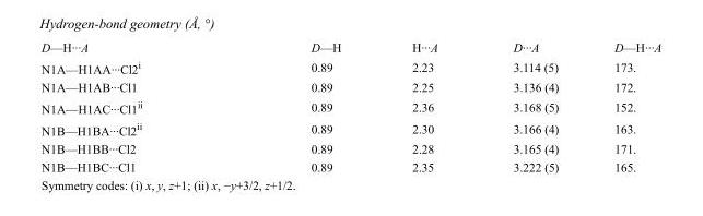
<table><tbody><tr><td>D—H···A</td><td>D—H</td><td>H···A</td><td>D···A</td><td>D—H···A</td></tr><tr><td>N1A—H1AA···Cl2<sup>i</sup></td><td>0.89</td><td>2.23</td><td>3.114 (5)</td><td>173.</td></tr><tr><td>N1A—H1AB···Cl1</td><td>0.89</td><td>2.25</td><td>3.136 (4)</td><td>172.</td></tr><tr><td>N1A—H1AC···Cl1<sup>ii</sup></td><td>0.89</td><td>2.36</td><td>3.168 (5)</td><td>152.</td></tr><tr><td>N1B—H1BA···Cl2<sup>ii</sup></td><td>0.89</td><td>2.30</td><td>3.166 (4)</td><td>163.</td></tr><tr><td>N1B—H1BB···Cl2</td><td>0.89</td><td>2.28</td><td>3.165 (4)</td><td>171.</td></tr><tr><td>N1B—H1BC···Cl1</td><td>0.89</td><td>2.35</td><td>3.222 (5)</td><td>165.</td></tr></tbody></table>